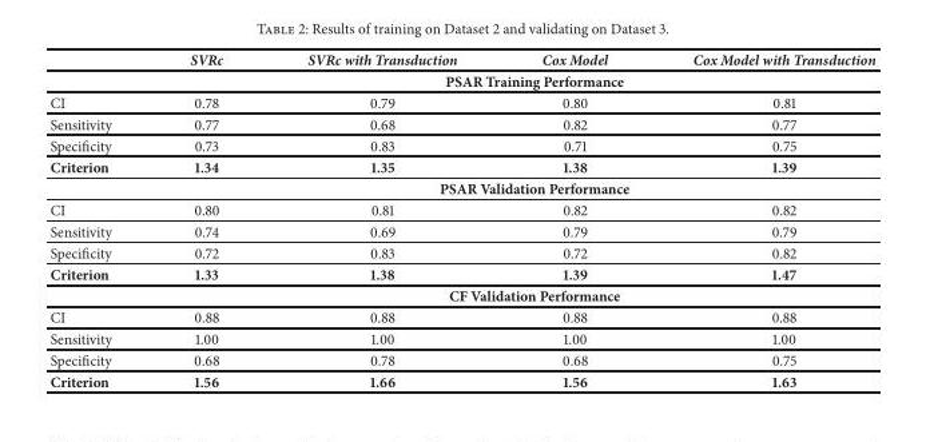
<table><thead><tr><td></td><td>SVRc</td><td>SVRc with Transduction</td><td>Cox Model</td><td>Cox Model with Transduction</td></tr></thead><tbody><tr><td></td><td colspan="4">PSAR Training Performance</td></tr><tr><td>CI</td><td>0.78</td><td>0.79</td><td>0.80</td><td>0.81</td></tr><tr><td>Sensitivity</td><td>0.77</td><td>0.68</td><td>0.82</td><td>0.77</td></tr><tr><td>Specificity</td><td>0.73</td><td>0.83</td><td>0.71</td><td>0.75</td></tr><tr><td rowspan="2">Criterion</td><td>1.34</td><td>1.35</td><td>1.38</td><td>1.39</td></tr><tr><td colspan="4">PSAR Validation Performance</td></tr><tr><td>CI</td><td>0.80</td><td>0.81</td><td>0.82</td><td>0.82</td></tr><tr><td>Sensitivity</td><td>0.74</td><td>0.69</td><td>0.79</td><td>0.79</td></tr><tr><td>Specificity</td><td>0.72</td><td>0.83</td><td>0.72</td><td>0.82</td></tr><tr><td rowspan="2">Criterion</td><td>1.33</td><td>1.38</td><td>1.39</td><td>1.47</td></tr><tr><td colspan="4">CF Validation Performance</td></tr><tr><td>CI</td><td>0.88</td><td>0.88</td><td>0.88</td><td>0.88</td></tr><tr><td>Sensitivity</td><td>1.00</td><td>1.00</td><td>1.00</td><td>1.00</td></tr><tr><td>Specificity</td><td>0.68</td><td>0.78</td><td>0.68</td><td>0.75</td></tr><tr><td>Criterion</td><td>1.56</td><td>1.66</td><td>1.56</td><td>1.63</td></tr></tbody></table>